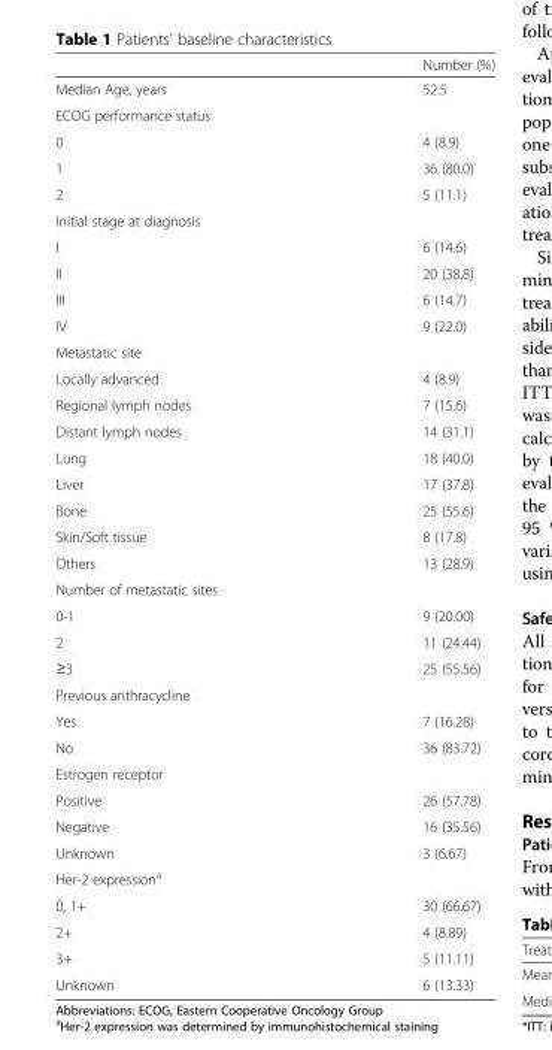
<table><thead><tr><td></td><td>Number (%)</td></tr></thead><tbody><tr><td>Median Age, years</td><td>52.5</td></tr><tr><td colspan="2">ECOG performance status</td></tr><tr><td>0</td><td>4 (8.9)</td></tr><tr><td>1</td><td>36 (80.0)</td></tr><tr><td>2</td><td>5 (11.1)</td></tr><tr><td colspan="2">Initial stage at diagnosis</td></tr><tr><td>I</td><td>6 (14.6)</td></tr><tr><td>II</td><td>20 (38.8)</td></tr><tr><td>III</td><td>6 (14.7)</td></tr><tr><td>IV</td><td>9 (22.0)</td></tr><tr><td colspan="2">Metastatic site</td></tr><tr><td>Locally advanced</td><td>4 (8.9)</td></tr><tr><td>Regional lymph nodes</td><td>7 (15.6)</td></tr><tr><td>Distant lymph nodes</td><td>14 (31.1)</td></tr><tr><td>Lung</td><td>18 (40.0)</td></tr><tr><td>Liver</td><td>17 (37.8)</td></tr><tr><td>Bone</td><td>25 (55.6)</td></tr><tr><td>Skin/Soft tissue</td><td>8 (17.8)</td></tr><tr><td>Others</td><td>13 (28.9)</td></tr><tr><td colspan="2">Number of metastatic sites</td></tr><tr><td>0-1</td><td>9 (20.00)</td></tr><tr><td>2</td><td>11 (24.44)</td></tr><tr><td>≥3</td><td>25 (55.56)</td></tr><tr><td colspan="2">Previous anthracycline</td></tr><tr><td>Yes</td><td>7 (16.28)</td></tr><tr><td>No</td><td>36 (83.72)</td></tr><tr><td colspan="2">Estrogen receptor</td></tr><tr><td>Positive</td><td>26 (57.78)</td></tr><tr><td>Negative</td><td>16 (35.56)</td></tr><tr><td>Unknown</td><td>3 (6.67)</td></tr><tr><td colspan="2">Her-2 expression<sup>a</sup></td></tr><tr><td>0, 1+</td><td>30 (66.67)</td></tr><tr><td>2+</td><td>4 (8.89)</td></tr><tr><td>3+</td><td>5 (11.11)</td></tr><tr><td>Unknown</td><td>6 (13.33)</td></tr></tbody></table>